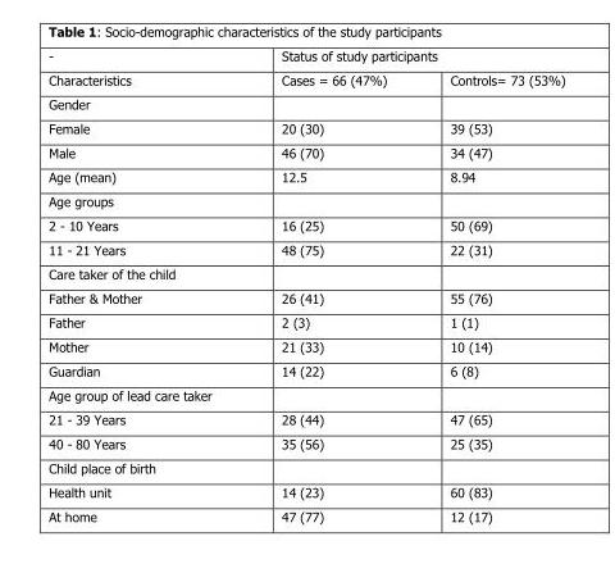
<table><thead><tr><td rowspan="2">- Characteristics</td><td colspan="2">Status of study participants</td></tr><tr><td>Cases = 66 (47%)</td><td>Controls= 73 (53%)</td></tr></thead><tbody><tr><td colspan="3">Gender</td></tr><tr><td>Female</td><td>20 (30)</td><td>39 (53)</td></tr><tr><td>Male</td><td>46 (70)</td><td>34 (47)</td></tr><tr><td>Age (mean)</td><td>12.5</td><td>8.94</td></tr><tr><td colspan="3">Age groups</td></tr><tr><td>2 - 10 Years</td><td>16 (25)</td><td>50 (69)</td></tr><tr><td>11 - 21 Years</td><td>48 (75)</td><td>22 (31)</td></tr><tr><td colspan="3">Care taker of the child</td></tr><tr><td>Father &amp; Mother</td><td>26 (41)</td><td>55 (76)</td></tr><tr><td>Father</td><td>2 (3)</td><td>1 (1)</td></tr><tr><td>Mother</td><td>21 (33)</td><td>10 (14)</td></tr><tr><td>Guardian</td><td>14 (22)</td><td>6 (8)</td></tr><tr><td colspan="3">Age group of lead care taker</td></tr><tr><td>21 - 39 Years</td><td>28 (44)</td><td>47 (65)</td></tr><tr><td>40 - 80 Years</td><td>35 (56)</td><td>25 (35)</td></tr><tr><td colspan="3">Child place of birth</td></tr><tr><td>Health unit</td><td>14 (23)</td><td>60 (83)</td></tr><tr><td>At home</td><td>47 (77)</td><td>12 (17)</td></tr></tbody></table>